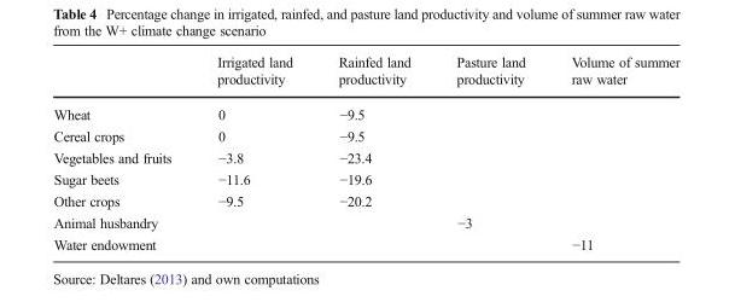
<table><thead><tr><td></td><td>Irrigated land productivity</td><td>Rainfed land productivity</td><td>Pasture land productivity</td><td>Volume of summer raw water</td></tr></thead><tbody><tr><td>Wheat</td><td>0</td><td>−9.5</td><td rowspan="5"></td><td rowspan="6"></td></tr><tr><td>Cereal crops</td><td>0</td><td>−9.5</td></tr><tr><td>Vegetables and fruits</td><td>−3.8</td><td>−23.4</td></tr><tr><td>Sugar beets</td><td>−11.6</td><td>−19.6</td></tr><tr><td>Other crops</td><td>−9.5</td><td>−20.2</td></tr><tr><td>Animal husbandry</td><td rowspan="2"></td><td rowspan="2"></td><td rowspan="2">−3</td></tr><tr><td>Water endowment</td><td>−11</td></tr></tbody></table>